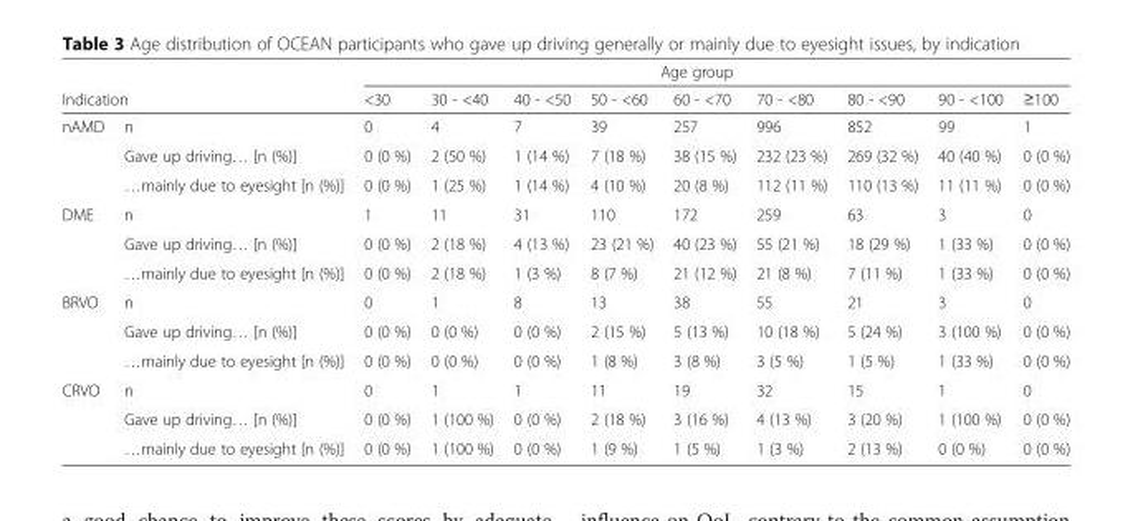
<table><thead><tr><td></td><td></td><td colspan="9">Age group</td></tr><tr><td colspan="2">Indication</td><td>&lt;30</td><td>30 - &lt;40</td><td>40 - &lt;50</td><td>50 - &lt;60</td><td>60 - &lt;70</td><td>70 - &lt;80</td><td>80 - &lt;90</td><td>90 - &lt;100</td><td>≥100</td></tr></thead><tbody><tr><td rowspan="3">nAMD</td><td>n</td><td>0</td><td>4</td><td>7</td><td>39</td><td>257</td><td>996</td><td>852</td><td>99</td><td>1</td></tr><tr><td>Gave up driving… [n (%)]</td><td>0 (0 %)</td><td>2 (50 %)</td><td>1 (14 %)</td><td>7 (18 %)</td><td>38 (15 %)</td><td>232 (23 %)</td><td>269 (32 %)</td><td>40 (40 %)</td><td>0 (0 %)</td></tr><tr><td>…mainly due to eyesight [n (%)]</td><td>0 (0 %)</td><td>1 (25 %)</td><td>1 (14 %)</td><td>4 (10 %)</td><td>20 (8 %)</td><td>112 (11 %)</td><td>110 (13 %)</td><td>11 (11 %)</td><td>0 (0 %)</td></tr><tr><td rowspan="3">DME</td><td>n</td><td>1</td><td>11</td><td>31</td><td>110</td><td>172</td><td>259</td><td>63</td><td>3</td><td>0</td></tr><tr><td>Gave up driving… [n (%)]</td><td>0 (0 %)</td><td>2 (18 %)</td><td>4 (13 %)</td><td>23 (21 %)</td><td>40 (23 %)</td><td>55 (21 %)</td><td>18 (29 %)</td><td>1 (33 %)</td><td>0 (0 %)</td></tr><tr><td>…mainly due to eyesight [n (%)]</td><td>0 (0 %)</td><td>2 (18 %)</td><td>1 (3 %)</td><td>8 (7 %)</td><td>21 (12 %)</td><td>21 (8 %)</td><td>7 (11 %)</td><td>1 (33 %)</td><td>0 (0 %)</td></tr><tr><td rowspan="3">BRVO</td><td>n</td><td>0</td><td>1</td><td>8</td><td>13</td><td>38</td><td>55</td><td>21</td><td>3</td><td>0</td></tr><tr><td>Gave up driving… [n (%)]</td><td>0 (0 %)</td><td>0 (0 %)</td><td>0 (0 %)</td><td>2 (15 %)</td><td>5 (13 %)</td><td>10 (18 %)</td><td>5 (24 %)</td><td>3 (100 %)</td><td>0 (0 %)</td></tr><tr><td>…mainly due to eyesight [n (%)]</td><td>0 (0 %)</td><td>0 (0 %)</td><td>0 (0 %)</td><td>1 (8 %)</td><td>3 (8 %)</td><td>3 (5 %)</td><td>1 (5 %)</td><td>1 (33 %)</td><td>0 (0 %)</td></tr><tr><td rowspan="3">CRVO</td><td>n</td><td>0</td><td>1</td><td>1</td><td>11</td><td>19</td><td>32</td><td>15</td><td>1</td><td>0</td></tr><tr><td>Gave up driving… [n (%)]</td><td>0 (0 %)</td><td>1 (100 %)</td><td>0 (0 %)</td><td>2 (18 %)</td><td>3 (16 %)</td><td>4 (13 %)</td><td>3 (20 %)</td><td>1 (100 %)</td><td>0 (0 %)</td></tr><tr><td>…mainly due to eyesight [n (%)]</td><td>0 (0 %)</td><td>1 (100 %)</td><td>0 (0 %)</td><td>1 (9 %)</td><td>1 (5 %)</td><td>1 (3 %)</td><td>2 (13 %)</td><td>0 (0 %)</td><td>0 (0 %)</td></tr></tbody></table>